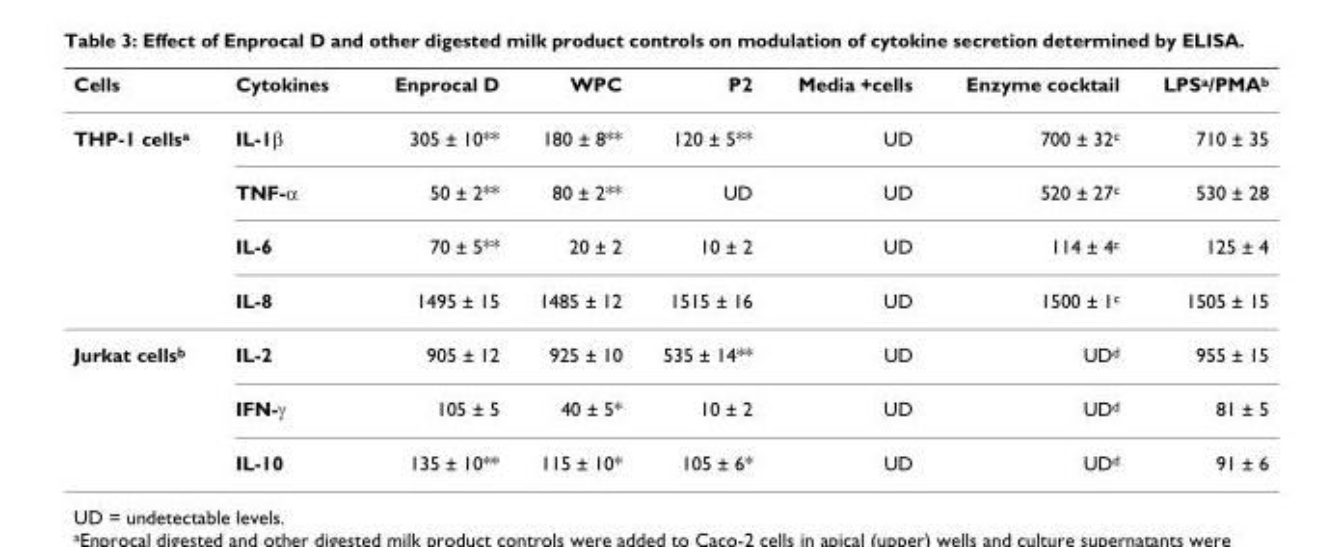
<table><thead><tr><td>Cells</td><td>Cytokines</td><td>Enprocal D</td><td>WPC</td><td>P2</td><td>Media +cells</td><td>Enzyme cocktail</td><td>LPS<sup>a</sup>/PMA<sup>b</sup></td></tr></thead><tbody><tr><td rowspan="4">THP-1 cells<sup>a</sup></td><td>IL-1β</td><td>305 ± 10**</td><td>180 ± 8**</td><td>120 ± 5**</td><td>UD</td><td>700 ± 32<sup>c</sup></td><td>710 ± 35</td></tr><tr><td>TNF-α</td><td>50 ± 2**</td><td>80 ± 2**</td><td>UD</td><td>UD</td><td>520 ± 27<sup>c</sup></td><td>530 ± 28</td></tr><tr><td>IL-6</td><td>70 ± 5**</td><td>20 ± 2</td><td>10 ± 2</td><td>UD</td><td>114 ± 4<sup>c</sup></td><td>125 ± 4</td></tr><tr><td>IL-8</td><td>1495 ± 15</td><td>1485 ± 12</td><td>1515 ± 16</td><td>UD</td><td>1500 ± 1<sup>c</sup></td><td>1505 ± 15</td></tr><tr><td rowspan="3">Jurkat cells<sup>b</sup></td><td>IL-2</td><td>905 ± 12</td><td>925 ± 10</td><td>535 ± 14**</td><td>UD</td><td>UD<sup>d</sup></td><td>955 ± 15</td></tr><tr><td>IFN-γ</td><td>105 ± 5</td><td>40 ± 5*</td><td>10 ± 2</td><td>UD</td><td>UD<sup>d</sup></td><td>81 ± 5</td></tr><tr><td>IL-10</td><td>135 ± 10**</td><td>115 ± 10*</td><td>105 ± 6*</td><td>UD</td><td>UD<sup>d</sup></td><td>91 ± 6</td></tr></tbody></table>